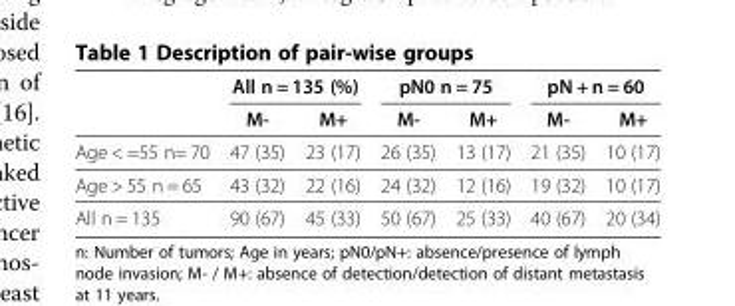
<table><thead><tr><td rowspan="2"></td><td colspan="2">All n = 135 (%)</td><td colspan="2">pN0 n = 75</td><td colspan="2">pN + n = 60</td></tr><tr><td>M-</td><td>M+</td><td>M-</td><td>M+</td><td>M-</td><td>M+</td></tr></thead><tbody><tr><td>Age &lt; =55 n= 70</td><td>47 (35)</td><td>23 (17)</td><td>26 (35)</td><td>13 (17)</td><td>21 (35)</td><td>10 (17)</td></tr><tr><td>Age &gt; 55 n = 65</td><td>43 (32)</td><td>22 (16)</td><td>24 (32)</td><td>12 (16)</td><td>19 (32)</td><td>10 (17)</td></tr><tr><td>All n = 135</td><td>90 (67)</td><td>45 (33)</td><td>50 (67)</td><td>25 (33)</td><td>40 (67)</td><td>20 (34)</td></tr></tbody></table>